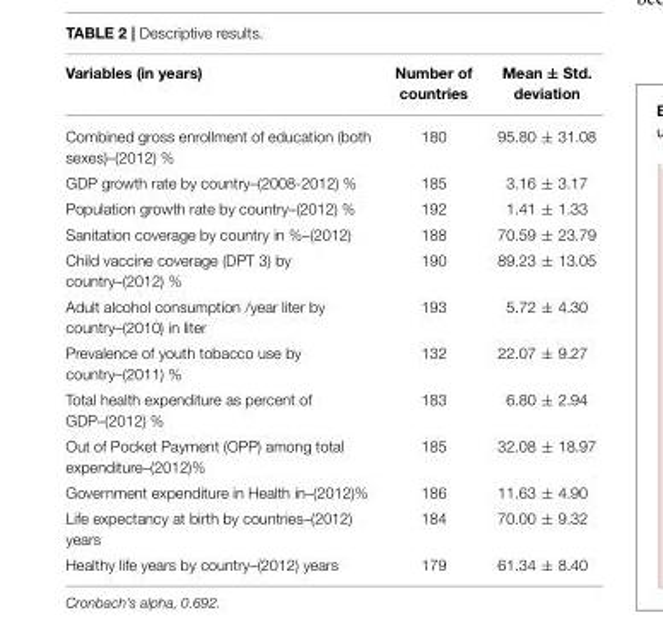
<table><thead><tr><td>Variables (in years)</td><td>Number of countries</td><td>Mean ± Std. deviation</td></tr></thead><tbody><tr><td>Combined gross enrollment of education (both sexes)–(2012) %</td><td>180</td><td>95.80 ± 31.08</td></tr><tr><td>GDP growth rate by country–(2008-2012) %</td><td>185</td><td>3.16 ± 3.17</td></tr><tr><td>Population growth rate by country–(2012) %</td><td>192</td><td>1.41 ± 1.33</td></tr><tr><td>Sanitation coverage by country in %–(2012)</td><td>188</td><td>70.59 ± 23.79</td></tr><tr><td>Child vaccine coverage (DPT 3) by country–(2012) %</td><td>190</td><td>89.23 ± 13.05</td></tr><tr><td>Adult alcohol consumption /year liter by country–(2010) in liter</td><td>193</td><td>5.72 ± 4.30</td></tr><tr><td>Prevalence of youth tobacco use by country–(2011) %</td><td>132</td><td>22.07 ± 9.27</td></tr><tr><td>Total health expenditure as percent of GDP–(2012) %</td><td>183</td><td>6.80 ± 2.94</td></tr><tr><td>Out of Pocket Payment (OPP) among total expenditure–(2012)%</td><td>185</td><td>32.08 ± 18.97</td></tr><tr><td>Government expenditure in Health in–(2012)%</td><td>186</td><td>11.63 ± 4.90</td></tr><tr><td>Life expectancy at birth by countries–(2012) years</td><td>184</td><td>70.00 ± 9.32</td></tr><tr><td>Healthy life years by country–(2012) years</td><td>179</td><td>61.34 ± 8.40</td></tr></tbody></table>